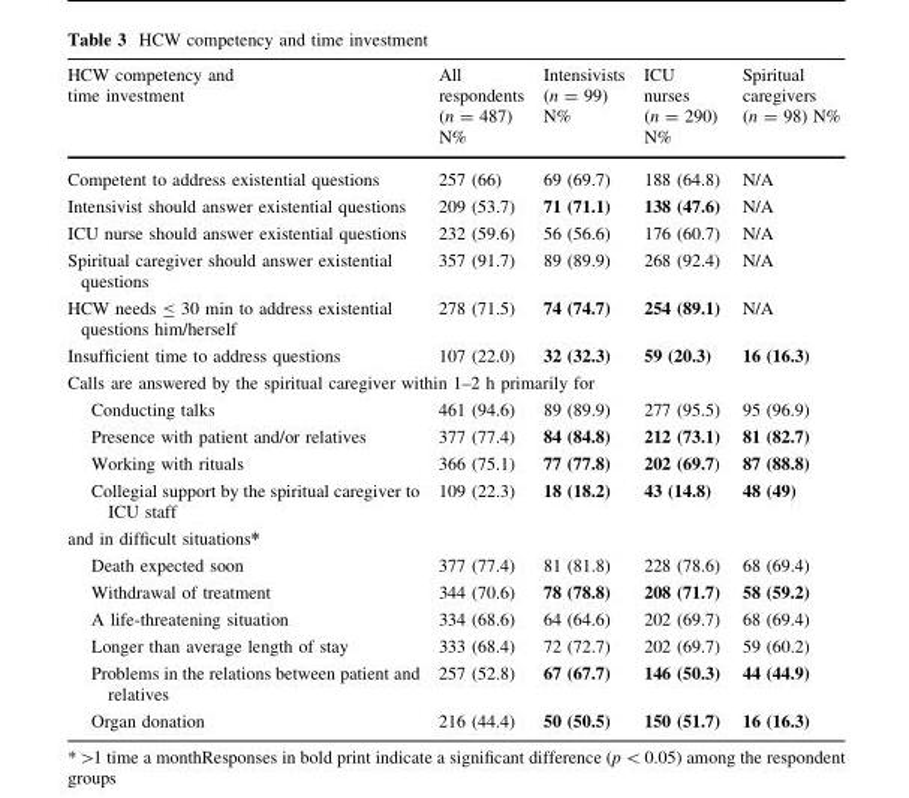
<table><thead><tr><td>HCW competency and time investment</td><td>All respondents (n = 487) N%</td><td>Intensivists (n = 99) N%</td><td>ICU nurses (n = 290) N%</td><td>Spiritual caregivers (n = 98) N%</td></tr></thead><tbody><tr><td>Competent to address existential questions</td><td>257 (66)</td><td>69 (69.7)</td><td>188 (64.8)</td><td>N/A</td></tr><tr><td>Intensivist should answer existential questions</td><td>209 (53.7)</td><td>71 (71.1)</td><td>138 (47.6)</td><td>N/A</td></tr><tr><td>ICU nurse should answer existential questions</td><td>232 (59.6)</td><td>56 (56.6)</td><td>176 (60.7)</td><td>N/A</td></tr><tr><td>Spiritual caregiver should answer existential questions</td><td>357 (91.7)</td><td>89 (89.9)</td><td>268 (92.4)</td><td>N/A</td></tr><tr><td>HCW needs ≤ 30 min to address existential questions him/herself</td><td>278 (71.5)</td><td>74 (74.7)</td><td>254 (89.1)</td><td>N/A</td></tr><tr><td>Insufficient time to address questions</td><td>107 (22.0)</td><td>32 (32.3)</td><td>59 (20.3)</td><td>16 (16.3)</td></tr><tr><td colspan="5">Calls are answered by the spiritual caregiver within 1–2 h primarily for</td></tr><tr><td>Conducting talks</td><td>461 (94.6)</td><td>89 (89.9)</td><td>277 (95.5)</td><td>95 (96.9)</td></tr><tr><td>Presence with patient and/or relatives</td><td>377 (77.4)</td><td>84 (84.8)</td><td>212 (73.1)</td><td>81 (82.7)</td></tr><tr><td>Working with rituals</td><td>366 (75.1)</td><td>77 (77.8)</td><td>202 (69.7)</td><td>87 (88.8)</td></tr><tr><td>Collegial support by the spiritual caregiver to ICU staff</td><td>109 (22.3)</td><td>18 (18.2)</td><td>43 (14.8)</td><td>48 (49)</td></tr><tr><td colspan="5">and in difficult situations*</td></tr><tr><td>Death expected soon</td><td>377 (77.4)</td><td>81 (81.8)</td><td>228 (78.6)</td><td>68 (69.4)</td></tr><tr><td>Withdrawal of treatment</td><td>344 (70.6)</td><td>78 (78.8)</td><td>208 (71.7)</td><td>58 (59.2)</td></tr><tr><td>A life-threatening situation</td><td>334 (68.6)</td><td>64 (64.6)</td><td>202 (69.7)</td><td>68 (69.4)</td></tr><tr><td>Longer than average length of stay</td><td>333 (68.4)</td><td>72 (72.7)</td><td>202 (69.7)</td><td>59 (60.2)</td></tr><tr><td>Problems in the relations between patient and relatives</td><td>257 (52.8)</td><td>67 (67.7)</td><td>146 (50.3)</td><td>44 (44.9)</td></tr><tr><td>Organ donation</td><td>216 (44.4)</td><td>50 (50.5)</td><td>150 (51.7)</td><td>16 (16.3)</td></tr></tbody></table>